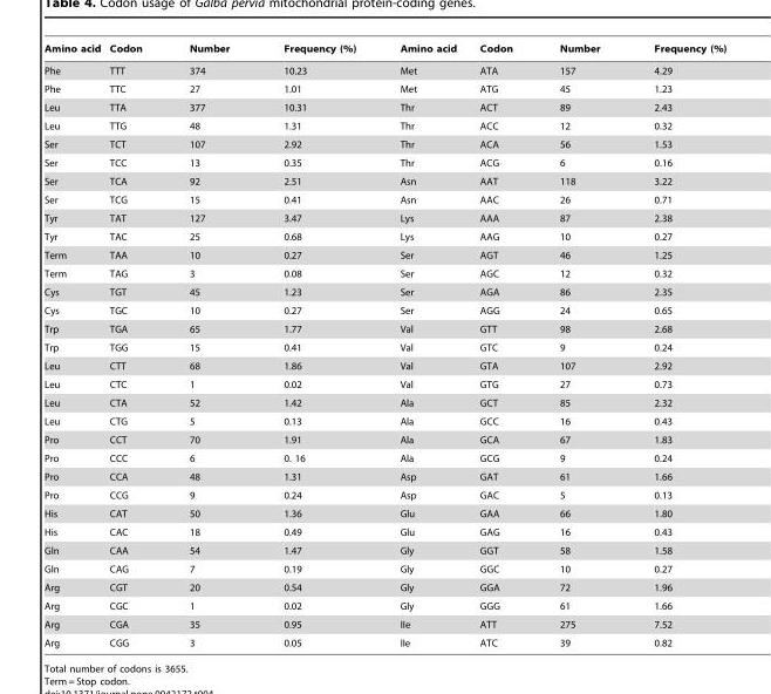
<table><thead><tr><td>Amino acid</td><td>Codon</td><td>Number</td><td>Frequency (%)</td><td>Amino acid</td><td>Codon</td><td>Number</td><td>Frequency (%)</td></tr></thead><tbody><tr><td>Phe</td><td>TTT</td><td>374</td><td>10.23</td><td>Met</td><td>ATA</td><td>157</td><td>4.29</td></tr><tr><td>Phe</td><td>TTC</td><td>27</td><td>1.01</td><td>Met</td><td>ATG</td><td>45</td><td>1.23</td></tr><tr><td>Leu</td><td>TTA</td><td>377</td><td>10.31</td><td>Thr</td><td>ACT</td><td>89</td><td>2.43</td></tr><tr><td>Leu</td><td>TTG</td><td>48</td><td>1.31</td><td>Thr</td><td>ACC</td><td>12</td><td>0.32</td></tr><tr><td>Ser</td><td>TCT</td><td>107</td><td>2.92</td><td>Thr</td><td>ACA</td><td>56</td><td>1.53</td></tr><tr><td>Ser</td><td>TCC</td><td>13</td><td>0.35</td><td>Thr</td><td>ACG</td><td>6</td><td>0.16</td></tr><tr><td>Ser</td><td>TCA</td><td>92</td><td>2.51</td><td>Asn</td><td>AAT</td><td>118</td><td>3.22</td></tr><tr><td>Ser</td><td>TCG</td><td>15</td><td>0.41</td><td>Asn</td><td>AAC</td><td>26</td><td>0.71</td></tr><tr><td>Tyr</td><td>TAT</td><td>127</td><td>3.47</td><td>Lys</td><td>AAA</td><td>87</td><td>2.38</td></tr><tr><td>Tyr</td><td>TAC</td><td>25</td><td>0.68</td><td>Lys</td><td>AAG</td><td>10</td><td>0.27</td></tr><tr><td>Term</td><td>TAA</td><td>10</td><td>0.27</td><td>Ser</td><td>AGT</td><td>46</td><td>1.25</td></tr><tr><td>Term</td><td>TAG</td><td>3</td><td>0.08</td><td>Ser</td><td>AGC</td><td>12</td><td>0.32</td></tr><tr><td>Cys</td><td>TGT</td><td>45</td><td>1.23</td><td>Ser</td><td>AGA</td><td>86</td><td>2.35</td></tr><tr><td>Cys</td><td>TGC</td><td>10</td><td>0.27</td><td>Ser</td><td>AGG</td><td>24</td><td>0.65</td></tr><tr><td>Trp</td><td>TGA</td><td>65</td><td>1.77</td><td>Val</td><td>GTT</td><td>98</td><td>2.68</td></tr><tr><td>Trp</td><td>TGG</td><td>15</td><td>0.41</td><td>Val</td><td>GTC</td><td>9</td><td>0.24</td></tr><tr><td>Leu</td><td>CTT</td><td>68</td><td>1.86</td><td>Val</td><td>GTA</td><td>107</td><td>2.92</td></tr><tr><td>Leu</td><td>CTC</td><td>1</td><td>0.02</td><td>Val</td><td>GTG</td><td>27</td><td>0.73</td></tr><tr><td>Leu</td><td>CTA</td><td>52</td><td>1.42</td><td>Ala</td><td>GCT</td><td>85</td><td>2.32</td></tr><tr><td>Leu</td><td>CTG</td><td>5</td><td>0.13</td><td>Ala</td><td>GCC</td><td>16</td><td>0.43</td></tr><tr><td>Pro</td><td>CCT</td><td>70</td><td>1.91</td><td>Ala</td><td>GCA</td><td>67</td><td>1.83</td></tr><tr><td>Pro</td><td>CCC</td><td>6</td><td>0. 16</td><td>Ala</td><td>GCG</td><td>9</td><td>0.24</td></tr><tr><td>Pro</td><td>CCA</td><td>48</td><td>1.31</td><td>Asp</td><td>GAT</td><td>61</td><td>1.66</td></tr><tr><td>Pro</td><td>CCG</td><td>9</td><td>0.24</td><td>Asp</td><td>GAC</td><td>5</td><td>0.13</td></tr><tr><td>His</td><td>CAT</td><td>50</td><td>1.36</td><td>Glu</td><td>GAA</td><td>66</td><td>1.80</td></tr><tr><td>His</td><td>CAC</td><td>18</td><td>0.49</td><td>Glu</td><td>GAG</td><td>16</td><td>0.43</td></tr><tr><td>Gln</td><td>CAA</td><td>54</td><td>1.47</td><td>Gly</td><td>GGT</td><td>58</td><td>1.58</td></tr><tr><td>Gln</td><td>CAG</td><td>7</td><td>0.19</td><td>Gly</td><td>GGC</td><td>10</td><td>0.27</td></tr><tr><td>Arg</td><td>CGT</td><td>20</td><td>0.54</td><td>Gly</td><td>GGA</td><td>72</td><td>1.96</td></tr><tr><td>Arg</td><td>CGC</td><td>1</td><td>0.02</td><td>Gly</td><td>GGG</td><td>61</td><td>1.66</td></tr><tr><td>Arg</td><td>CGA</td><td>35</td><td>0.95</td><td>IIe</td><td>ATT</td><td>275</td><td>7.52</td></tr><tr><td>Arg</td><td>CGG</td><td>3</td><td>0.05</td><td>IIe</td><td>ATC</td><td>39</td><td>0.82</td></tr></tbody></table>